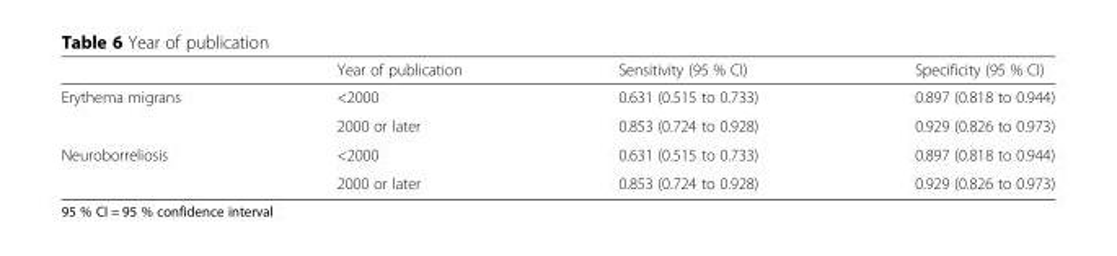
<table><thead><tr><td></td><td>Year of publication</td><td>Sensitivity (95 % CI)</td><td>Specificity (95 % CI)</td></tr></thead><tbody><tr><td rowspan="2">Erythema migrans</td><td>&lt;2000</td><td>0.631 (0.515 to 0.733)</td><td>0.897 (0.818 to 0.944)</td></tr><tr><td>2000 or later</td><td>0.853 (0.724 to 0.928)</td><td>0.929 (0.826 to 0.973)</td></tr><tr><td rowspan="2">Neuroborreliosis</td><td>&lt;2000</td><td>0.631 (0.515 to 0.733)</td><td>0.897 (0.818 to 0.944)</td></tr><tr><td>2000 or later</td><td>0.853 (0.724 to 0.928)</td><td>0.929 (0.826 to 0.973)</td></tr></tbody></table>